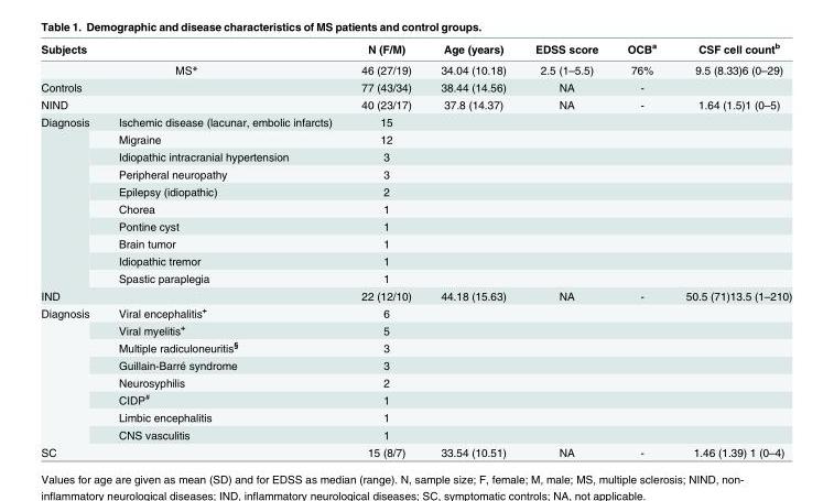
<table><thead><tr><td colspan="2">Subjects</td><td>N (F/M)</td><td>Age (years)</td><td>EDSS score</td><td>OCB<sup>a</sup></td><td>CSF cell count<sup>b</sup></td></tr></thead><tbody><tr><td colspan="2">MS*</td><td>46 (27/19)</td><td>34.04 (10.18)</td><td>2.5 (1–5.5)</td><td>76%</td><td>9.5 (8.33)6 (0–29)</td></tr><tr><td colspan="2">Controls</td><td>77 (43/34)</td><td>38.44 (14.56)</td><td>NA</td><td>-</td><td></td></tr><tr><td colspan="2">NIND</td><td>40 (23/17)</td><td>37.8 (14.37)</td><td>NA</td><td>-</td><td>1.64 (1.5)1 (0–5)</td></tr><tr><td rowspan="10">Diagnosis</td><td>Ischemic disease (lacunar, embolic infarcts)</td><td>15</td><td></td><td></td><td></td><td></td></tr><tr><td>Migraine</td><td>12</td><td></td><td></td><td></td><td></td></tr><tr><td>Idiopathic intracranial hypertension</td><td>3</td><td></td><td></td><td></td><td></td></tr><tr><td>Peripheral neuropathy</td><td>3</td><td></td><td></td><td></td><td></td></tr><tr><td>Epilepsy (idiopathic)</td><td>2</td><td></td><td></td><td></td><td></td></tr><tr><td>Chorea</td><td>1</td><td></td><td></td><td></td><td></td></tr><tr><td>Pontine cyst</td><td>1</td><td></td><td></td><td></td><td></td></tr><tr><td>Brain tumor</td><td>1</td><td></td><td></td><td></td><td></td></tr><tr><td>Idiopathic tremor</td><td>1</td><td></td><td></td><td></td><td></td></tr><tr><td>Spastic paraplegia</td><td>1</td><td></td><td></td><td></td><td></td></tr><tr><td colspan="2">IND</td><td>22 (12/10)</td><td>44.18 (15.63)</td><td>NA</td><td>-</td><td>50.5 (71)13.5 (1–210)</td></tr><tr><td rowspan="8">Diagnosis</td><td>Viral encephalitis<sup>+</sup></td><td>6</td><td></td><td></td><td></td><td></td></tr><tr><td>Viral myelitis<sup>+</sup></td><td>5</td><td></td><td></td><td></td><td></td></tr><tr><td>Multiple radiculoneuritis<sup>§</sup></td><td>3</td><td></td><td></td><td></td><td></td></tr><tr><td>Guillain-Barré syndrome</td><td>3</td><td></td><td></td><td></td><td></td></tr><tr><td>Neurosyphilis</td><td>2</td><td></td><td></td><td></td><td></td></tr><tr><td>CIDP<sup>#</sup></td><td>1</td><td></td><td></td><td></td><td></td></tr><tr><td>Limbic encephalitis</td><td>1</td><td></td><td></td><td></td><td></td></tr><tr><td>CNS vasculitis</td><td>1</td><td></td><td></td><td></td><td></td></tr><tr><td colspan="2">SC</td><td>15 (8/7)</td><td>33.54 (10.51)</td><td>NA</td><td>-</td><td>1.46 (1.39) 1 (0–4)</td></tr></tbody></table>